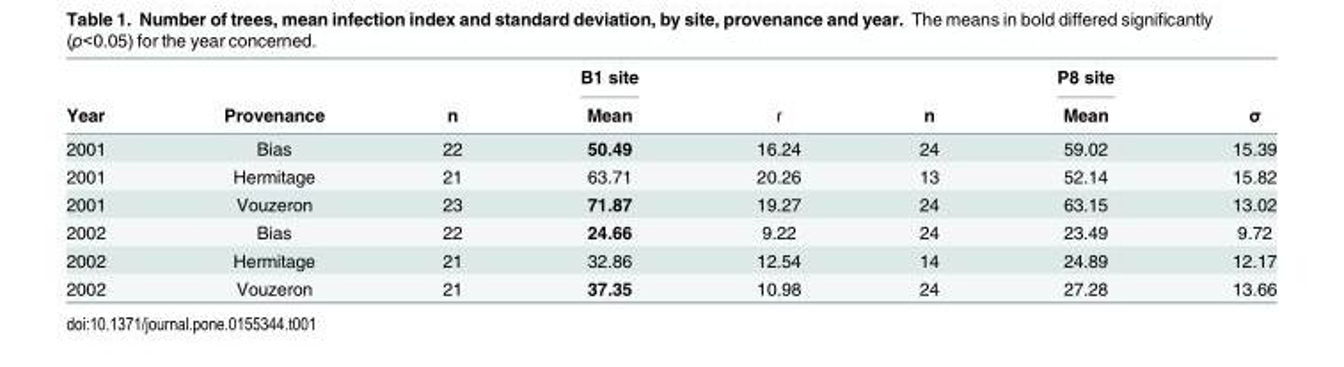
<table><thead><tr><td rowspan="2">Year</td><td rowspan="2">Provenance</td><td rowspan="2">n</td><td rowspan="2">B1 site Mean</td><td rowspan="2">ɾ</td><td rowspan="2">n</td><td rowspan="2">P8 site Mean</td><td rowspan="2">σ</td></tr><tr></tr></thead><tbody><tr><td>2001</td><td>Bias</td><td>22</td><td>50.49</td><td>16.24</td><td>24</td><td>59.02</td><td>15.39</td></tr><tr><td>2001</td><td>Hermitage</td><td>21</td><td>63.71</td><td>20.26</td><td>13</td><td>52.14</td><td>15.82</td></tr><tr><td>2001</td><td>Vouzeron</td><td>23</td><td>71.87</td><td>19.27</td><td>24</td><td>63.15</td><td>13.02</td></tr><tr><td>2002</td><td>Bias</td><td>22</td><td>24.66</td><td>9.22</td><td>24</td><td>23.49</td><td>9.72</td></tr><tr><td>2002</td><td>Hermitage</td><td>21</td><td>32.86</td><td>12.54</td><td>14</td><td>24.89</td><td>12.17</td></tr><tr><td>2002</td><td>Vouzeron</td><td>21</td><td>37.35</td><td>10.98</td><td>24</td><td>27.28</td><td>13.66</td></tr></tbody></table>